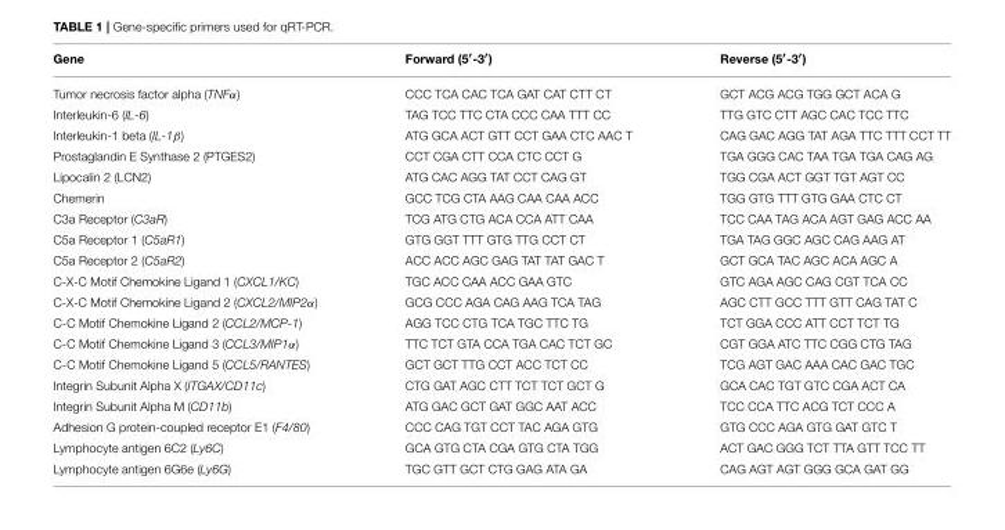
<table><thead><tr><td>Gene</td><td>Forward (5<sup>′</sup>-3<sup>′</sup>)</td><td>Reverse (5<sup>′</sup>-3<sup>′</sup>)</td></tr></thead><tbody><tr><td>Tumor necrosis factor alpha (TNFα)</td><td>CCC TCA CAC TCA GAT CAT CTT CT</td><td>GCT ACG ACG TGG GCT ACA G</td></tr><tr><td>Interleukin-6 (IL-6)</td><td>TAG TCC TTC CTA CCC CAA TTT CC</td><td>TTG GTC CTT AGC CAC TCC TTC</td></tr><tr><td>Interleukin-1 beta (IL-1β)</td><td>ATG GCA ACT GTT CCT GAA CTC AAC T</td><td>CAG GAC AGG TAT AGA TTC TTT CCT TT</td></tr><tr><td>Prostaglandin E Synthase 2 (PTGES2)</td><td>CCT CGA CTT CCA CTC CCT G</td><td>TGA GGG CAC TAA TGA TGA CAG AG</td></tr><tr><td>Lipocalin 2 (LCN2)</td><td>ATG CAC AGG TAT CCT CAG GT</td><td>TGG CGA ACT GGT TGT AGT CC</td></tr><tr><td>Chemerin</td><td>GCC TCG CTA AAG CAA CAA ACC</td><td>TGG GTG TTT GTG GAA CTC CT</td></tr><tr><td>C3a Receptor (C3aR)</td><td>TCG ATG CTG ACA CCA ATT CAA</td><td>TCC CAA TAG ACA AGT GAG ACC AA</td></tr><tr><td>C5a Receptor 1 (C5aR1)</td><td>GTG GGT TTT GTG TTG CCT CT</td><td>TGA TAG GGC AGC CAG AAG AT</td></tr><tr><td>C5a Receptor 2 (C5aR2)</td><td>ACC ACC AGC GAG TAT TAT GAC T</td><td>GCT GCA TAC AGC ACA AGC A</td></tr><tr><td>C-X-C Motif Chemokine Ligand 1 (CXCL1/KC)</td><td>TGC ACC CAA ACC GAA GTC</td><td>GTC AGA AGC CAG CGT TCA CC</td></tr><tr><td>C-X-C Motif Chemokine Ligand 2 (CXCL2/MIP2α)</td><td>GCG CCC AGA CAG AAG TCA TAG</td><td>AGC CTT GCC TTT GTT CAG TAT C</td></tr><tr><td>C-C Motif Chemokine Ligand 2 (CCL2/MCP-1)</td><td>AGG TCC CTG TCA TGC TTC TG</td><td>TCT GGA CCC ATT CCT TCT TG</td></tr><tr><td>C-C Motif Chemokine Ligand 3 (CCL3/MIP1α)</td><td>TTC TCT GTA CCA TGA CAC TCT GC</td><td>CGT GGA ATC TTC CGG CTG TAG</td></tr><tr><td>C-C Motif Chemokine Ligand 5 (CCL5/RANTES)</td><td>GCT GCT TTG CCT ACC TCT CC</td><td>TCG AGT GAC AAA CAC GAC TGC</td></tr><tr><td>Integrin Subunit Alpha X (ITGAX/CD11c)</td><td>CTG GAT AGC CTT TCT TCT GCT G</td><td>GCA CAC TGT GTC CGA ACT CA</td></tr><tr><td>Integrin Subunit Alpha M (CD11b)</td><td>ATG GAC GCT GAT GGC AAT ACC</td><td>TCC CCA TTC ACG TCT CCC A</td></tr><tr><td>Adhesion G protein-coupled receptor E1 (F4/80)</td><td>CCC CAG TGT CCT TAC AGA GTG</td><td>GTG CCC AGA GTG GAT GTC T</td></tr><tr><td>Lymphocyte antigen 6C2 (Ly6C)</td><td>GCA GTG CTA CGA GTG CTA TGG</td><td>ACT GAC GGG TCT TTA GTT TCC TT</td></tr><tr><td>Lymphocyte antigen 6G6e (Ly6G)</td><td>TGC GTT GCT CTG GAG ATA GA</td><td>CAG AGT AGT GGG GCA GAT GG</td></tr></tbody></table>